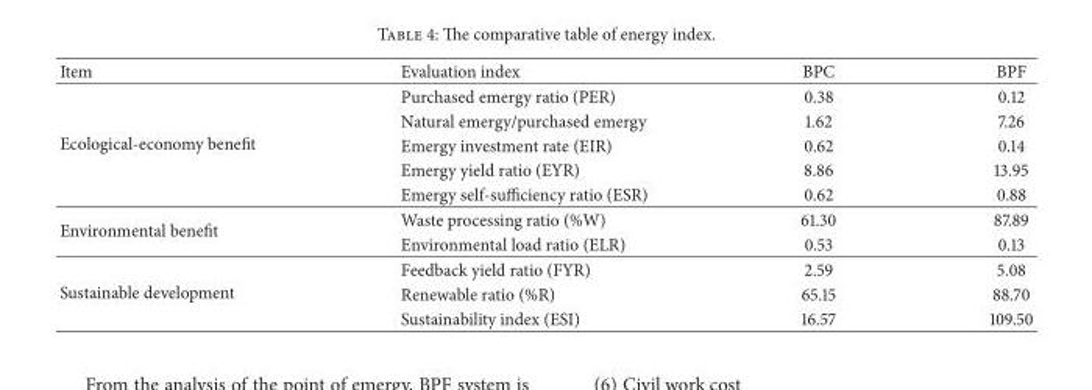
<table><thead><tr><td>Item</td><td>Evaluation index</td><td>BPC</td><td>BPF</td></tr></thead><tbody><tr><td rowspan="5">Ecological-economy benefit</td><td>Purchased emergy ratio (PER)</td><td>0.38</td><td>0.12</td></tr><tr><td>Natural emergy/purchased emergy</td><td>1.62</td><td>7.26</td></tr><tr><td>Emergy investment rate (EIR)</td><td>0.62</td><td>0.14</td></tr><tr><td>Emergy yield ratio (EYR)</td><td>8.86</td><td>13.95</td></tr><tr><td>Emergy self-sufficiency ratio (ESR)</td><td>0.62</td><td>0.88</td></tr><tr><td rowspan="2">Environmental benefit</td><td>Waste processing ratio (%W)</td><td>61.30</td><td>87.89</td></tr><tr><td>Environmental load ratio (ELR)</td><td>0.53</td><td>0.13</td></tr><tr><td rowspan="3">Sustainable development</td><td>Feedback yield ratio (FYR)</td><td>2.59</td><td>5.08</td></tr><tr><td>Renewable ratio (%R)</td><td>65.15</td><td>88.70</td></tr><tr><td>Sustainability index (ESI)</td><td>16.57</td><td>109.50</td></tr></tbody></table>